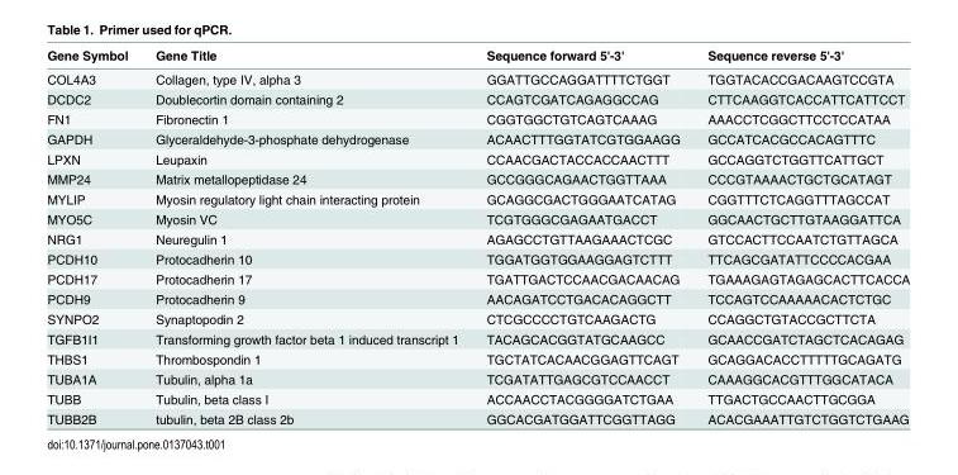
<table><thead><tr><td>Gene Symbol</td><td>Gene Title</td><td>Sequence forward 5&#x27;-3&#x27;</td><td>Sequence reverse 5&#x27;-3&#x27;</td></tr></thead><tbody><tr><td>COL4A3</td><td>Collagen, type IV, alpha 3</td><td>GGATTGCCAGGATTTTCTGGT</td><td>TGGTACACCGACAAGTCCGTA</td></tr><tr><td>DCDC2</td><td>Doublecortin domain containing 2</td><td>CCAGTCGATCAGAGGCCAG</td><td>CTTCAAGGTCACCATTCATTCCT</td></tr><tr><td>FN1</td><td>Fibronectin 1</td><td>CGGTGGCTGTCAGTCAAAG</td><td>AAACCTCGGCTTCCTCCATAA</td></tr><tr><td>GAPDH</td><td>Glyceraldehyde-3-phosphate dehydrogenase</td><td>ACAACTTTGGTATCGTGGAAGG</td><td>GCCATCACGCCACAGTTTC</td></tr><tr><td>LPXN</td><td>Leupaxin</td><td>CCAACGACTACCACCAACTTT</td><td>GCCAGGTCTGGTTCATTGCT</td></tr><tr><td>MMP24</td><td>Matrix metallopeptidase 24</td><td>GCCGGGCAGAACTGGTTAAA</td><td>CCCGTAAAACTGCTGCATAGT</td></tr><tr><td>MYLIP</td><td>Myosin regulatory light chain interacting protein</td><td>GCAGGCGACTGGGAATCATAG</td><td>CGGTTTCTCAGGTTTAGCCAT</td></tr><tr><td>MYO5C</td><td>Myosin VC</td><td>TCGTGGGCGAGAATGACCT</td><td>GGCAACTGCTTGTAAGGATTCA</td></tr><tr><td>NRG1</td><td>Neuregulin 1</td><td>AGAGCCTGTTAAGAAACTCGC</td><td>GTCCACTTCCAATCTGTTAGCA</td></tr><tr><td>PCDH10</td><td>Protocadherin 10</td><td>TGGATGGTGGAAGGAGTCTTT</td><td>TTCAGCGATATTCCCCACGAA</td></tr><tr><td>PCDH17</td><td>Protocadherin 17</td><td>TGATTGACTCCAACGACAACAG</td><td>TGAAAGAGTAGAGCACTTCACCA</td></tr><tr><td>PCDH9</td><td>Protocadherin 9</td><td>AACAGATCCTGACACAGGCTT</td><td>TCCAGTCCAAAAACACTCTGC</td></tr><tr><td>SYNPO2</td><td>Synaptopodin 2</td><td>CTCGCCCCTGTCAAGACTG</td><td>CCAGGCTGTACCGCTTCTA</td></tr><tr><td>TGFB1I1</td><td>Transforming growth factor beta 1 induced transcript 1</td><td>TACAGCACGGTATGCAAGCC</td><td>GCAACCGATCTAGCTCACAGAG</td></tr><tr><td>THBS1</td><td>Thrombospondin 1</td><td>TGCTATCACAACGGAGTTCAGT</td><td>GCAGGACACCTTTTTGCAGATG</td></tr><tr><td>TUBA1A</td><td>Tubulin, alpha 1a</td><td>TCGATATTGAGCGTCCAACCT</td><td>CAAAGGCACGTTTGGCATACA</td></tr><tr><td>TUBB</td><td>Tubulin, beta class I</td><td>ACCAACCTACGGGGATCTGAA</td><td>TTGACTGCCAACTTGCGGA</td></tr><tr><td>TUBB2B</td><td>tubulin, beta 2B class 2b</td><td>GGCACGATGGATTCGGTTAGG</td><td>ACACGAAATTGTCTGGTCTGAAG</td></tr></tbody></table>